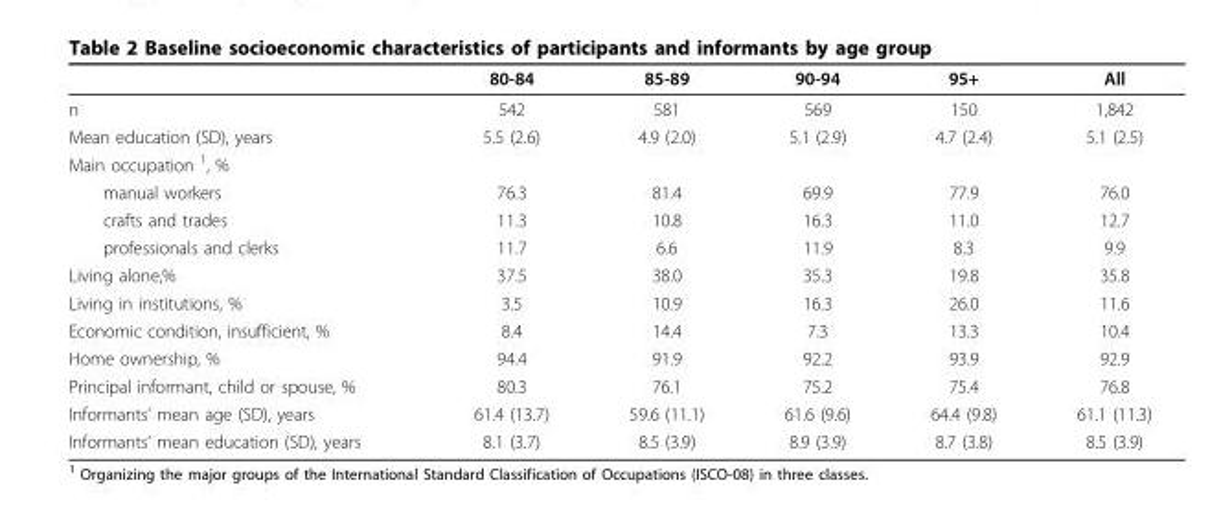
<table><thead><tr><td></td><td>80-84</td><td>85-89</td><td>90-94</td><td>95+</td><td>All</td></tr></thead><tbody><tr><td>n</td><td>542</td><td>581</td><td>569</td><td>150</td><td>1,842</td></tr><tr><td>Mean education (SD), years</td><td>5.5 (2.6)</td><td>4.9 (2.0)</td><td>5.1 (2.9)</td><td>4.7 (2.4)</td><td>5.1 (2.5)</td></tr><tr><td colspan="6">Main occupation <sup>1</sup>, %</td></tr><tr><td>manual workers</td><td>76.3</td><td>81.4</td><td>69.9</td><td>77.9</td><td>76.0</td></tr><tr><td>crafts and trades</td><td>11.3</td><td>10.8</td><td>16.3</td><td>11.0</td><td>12.7</td></tr><tr><td>professionals and clerks</td><td>11.7</td><td>6.6</td><td>11.9</td><td>8.3</td><td>9.9</td></tr><tr><td>Living alone,%</td><td>37.5</td><td>38.0</td><td>35.3</td><td>19.8</td><td>35.8</td></tr><tr><td>Living in institutions, %</td><td>3.5</td><td>10.9</td><td>16.3</td><td>26.0</td><td>11.6</td></tr><tr><td>Economic condition, insufficient, %</td><td>8.4</td><td>14.4</td><td>7.3</td><td>13.3</td><td>10.4</td></tr><tr><td>Home ownership, %</td><td>94.4</td><td>91.9</td><td>92.2</td><td>93.9</td><td>92.9</td></tr><tr><td>Principal informant, child or spouse, %</td><td>80.3</td><td>76.1</td><td>75.2</td><td>75.4</td><td>76.8</td></tr><tr><td>Informants’ mean age (SD), years</td><td>61.4 (13.7)</td><td>59.6 (11.1)</td><td>61.6 (9.6)</td><td>64.4 (9.8)</td><td>61.1 (11.3)</td></tr><tr><td>Informants’ mean education (SD), years</td><td>8.1 (3.7)</td><td>8.5 (3.9)</td><td>8.9 (3.9)</td><td>8.7 (3.8)</td><td>8.5 (3.9)</td></tr></tbody></table>